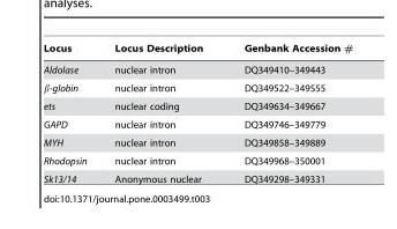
<table><thead><tr><td>Locus</td><td>Locus Description</td><td>Genbank Accession #</td></tr></thead><tbody><tr><td>Aldolase</td><td>nuclear intron</td><td>DQ349410–349443</td></tr><tr><td>β-globin</td><td>nuclear intron</td><td>DQ349522–349555</td></tr><tr><td>ets</td><td>nuclear coding</td><td>DQ349634–349667</td></tr><tr><td>GAPD</td><td>nuclear intron</td><td>DQ349746–349779</td></tr><tr><td>MYH</td><td>nuclear intron</td><td>DQ349858–349889</td></tr><tr><td>Rhodopsin</td><td>nuclear intron</td><td>DQ349968–350001</td></tr><tr><td>Sk13/14</td><td>Anonymous nuclear</td><td>DQ349298–349331</td></tr></tbody></table>